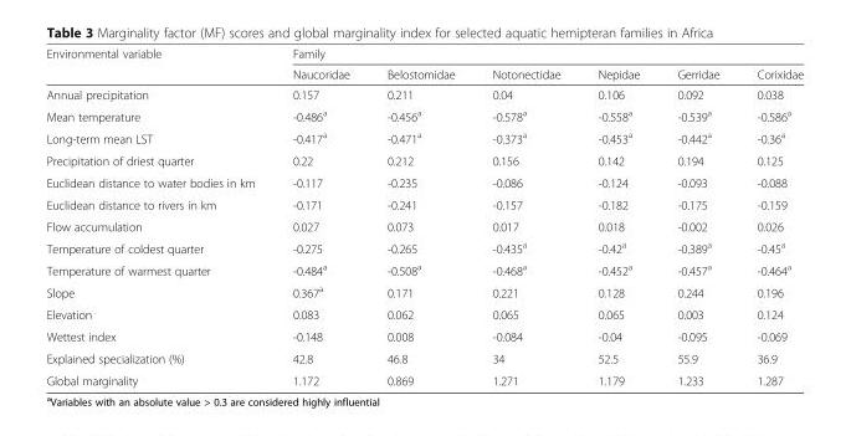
<table><thead><tr><td rowspan="2">Environmental variable</td><td colspan="6">Family</td></tr><tr><td>Naucoridae</td><td>Belostomidae</td><td>Notonectidae</td><td>Nepidae</td><td>Gerridae</td><td>Corixidae</td></tr></thead><tbody><tr><td>Annual precipitation</td><td>0.157</td><td>0.211</td><td>0.04</td><td>0.106</td><td>0.092</td><td>0.038</td></tr><tr><td>Mean temperature</td><td>-0.486<sup>a</sup></td><td>-0.456<sup>a</sup></td><td>-0.578<sup>a</sup></td><td>-0.558<sup>a</sup></td><td>-0.539<sup>a</sup></td><td>-0.586<sup>a</sup></td></tr><tr><td>Long-term mean LST</td><td>-0.417<sup>a</sup></td><td>-0.471<sup>a</sup></td><td>-0.373<sup>a</sup></td><td>-0.453<sup>a</sup></td><td>-0.442<sup>a</sup></td><td>-0.36<sup>a</sup></td></tr><tr><td>Precipitation of driest quarter</td><td>0.22</td><td>0.212</td><td>0.156</td><td>0.142</td><td>0.194</td><td>0.125</td></tr><tr><td>Euclidean distance to water bodies in km</td><td>-0.117</td><td>-0.235</td><td>-0.086</td><td>-0.124</td><td>-0.093</td><td>-0.088</td></tr><tr><td>Euclidean distance to rivers in km</td><td>-0.171</td><td>-0.241</td><td>-0.157</td><td>-0.182</td><td>-0.175</td><td>-0.159</td></tr><tr><td>Flow accumulation</td><td>0.027</td><td>0.073</td><td>0.017</td><td>0.018</td><td>-0.002</td><td>0.026</td></tr><tr><td>Temperature of coldest quarter</td><td>-0.275</td><td>-0.265</td><td>-0.435<sup>a</sup></td><td>-0.42<sup>a</sup></td><td>-0.389<sup>a</sup></td><td>-0.45<sup>a</sup></td></tr><tr><td>Temperature of warmest quarter</td><td>-0.484<sup>a</sup></td><td>-0.508<sup>a</sup></td><td>-0.468<sup>a</sup></td><td>-0.452<sup>a</sup></td><td>-0.457<sup>a</sup></td><td>-0.464<sup>a</sup></td></tr><tr><td>Slope</td><td>0.367<sup>a</sup></td><td>0.171</td><td>0.221</td><td>0.128</td><td>0.244</td><td>0.196</td></tr><tr><td>Elevation</td><td>0.083</td><td>0.062</td><td>0.065</td><td>0.065</td><td>0.003</td><td>0.124</td></tr><tr><td>Wettest index</td><td>-0.148</td><td>0.008</td><td>-0.084</td><td>-0.04</td><td>-0.095</td><td>-0.069</td></tr><tr><td>Explained specialization (%)</td><td>42.8</td><td>46.8</td><td>34</td><td>52.5</td><td>55.9</td><td>36.9</td></tr><tr><td>Global marginality</td><td>1.172</td><td>0.869</td><td>1.271</td><td>1.179</td><td>1.233</td><td>1.287</td></tr></tbody></table>